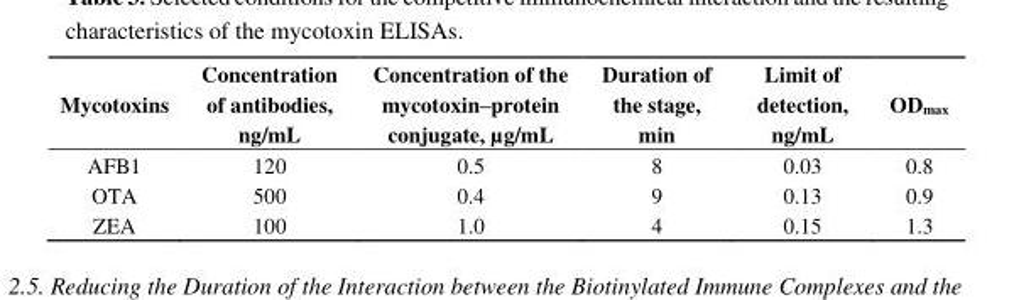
<table><thead><tr><td>Mycotoxins</td><td>Concentration of antibodies, ng/mL</td><td>Concentration of the mycotoxin–protein conjugate, µg/mL</td><td>Duration of the stage, min</td><td>Limit of detection, ng/mL</td><td>OD<sub>max</sub></td></tr></thead><tbody><tr><td>AFB1</td><td>120</td><td>0.5</td><td>8</td><td>0.03</td><td>0.8</td></tr><tr><td>OTA</td><td>500</td><td>0.4</td><td>9</td><td>0.13</td><td>0.9</td></tr><tr><td>ZEA</td><td>100</td><td>1.0</td><td>4</td><td>0.15</td><td>1.3</td></tr></tbody></table>